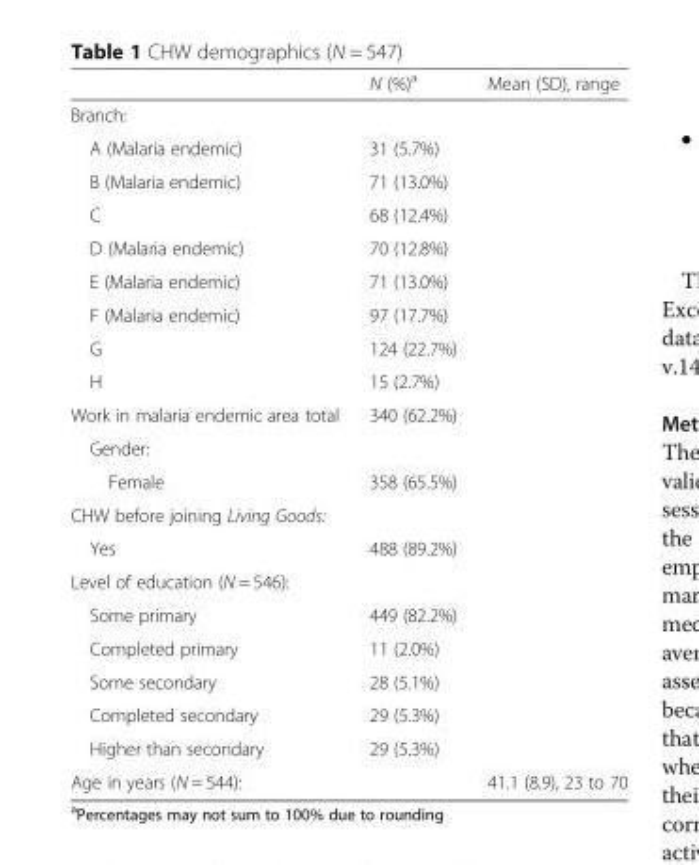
<table><thead><tr><td></td><td>N (%)<sup>a</sup></td><td>Mean (SD), range</td></tr></thead><tbody><tr><td colspan="3">Branch:</td></tr><tr><td>A (Malaria endemic)</td><td>31 (5.7%)</td><td></td></tr><tr><td>B (Malaria endemic)</td><td>71 (13.0%)</td><td></td></tr><tr><td>C</td><td>68 (12.4%)</td><td></td></tr><tr><td>D (Malaria endemic)</td><td>70 (12.8%)</td><td></td></tr><tr><td>E (Malaria endemic)</td><td>71 (13.0%)</td><td></td></tr><tr><td>F (Malaria endemic)</td><td>97 (17.7%)</td><td></td></tr><tr><td>G</td><td>124 (22.7%)</td><td></td></tr><tr><td>H</td><td>15 (2.7%)</td><td></td></tr><tr><td>Work in malaria endemic area total</td><td>340 (62.2%)</td><td></td></tr><tr><td colspan="3">Gender:</td></tr><tr><td>Female</td><td>358 (65.5%)</td><td></td></tr><tr><td colspan="3">CHW before joining Living Goods:</td></tr><tr><td>Yes</td><td>488 (89.2%)</td><td></td></tr><tr><td colspan="3">Level of education (N = 546):</td></tr><tr><td>Some primary</td><td>449 (82.2%)</td><td></td></tr><tr><td>Completed primary</td><td>11 (2.0%)</td><td></td></tr><tr><td>Some secondary</td><td>28 (5.1%)</td><td></td></tr><tr><td>Completed secondary</td><td>29 (5.3%)</td><td></td></tr><tr><td>Higher than secondary</td><td>29 (5.3%)</td><td></td></tr><tr><td colspan="2">Age in years (N = 544):</td><td>41.1 (8.9), 23 to 70</td></tr></tbody></table>